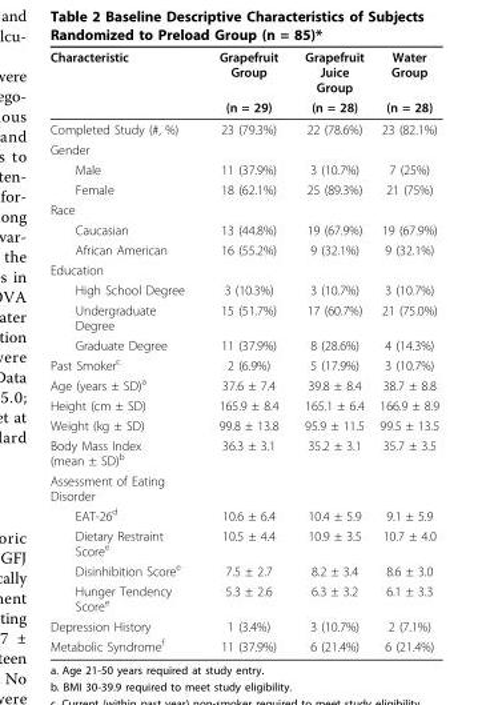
<table><thead><tr><td rowspan="2">Characteristic</td><td rowspan="2">Grapefruit Group (n = 29)</td><td rowspan="2">Grapefruit Juice Group (n = 28)</td><td rowspan="2">Water Group (n = 28)</td></tr><tr></tr></thead><tbody><tr><td>Completed Study (#, %)</td><td>23 (79.3%)</td><td>22 (78.6%)</td><td>23 (82.1%)</td></tr><tr><td colspan="4">Gender</td></tr><tr><td>Male</td><td>11 (37.9%)</td><td>3 (10.7%)</td><td>7 (25%)</td></tr><tr><td>Female</td><td>18 (62.1%)</td><td>25 (89.3%)</td><td>21 (75%)</td></tr><tr><td colspan="4">Race</td></tr><tr><td>Caucasian</td><td>13 (44.8%)</td><td>19 (67.9%)</td><td>19 (67.9%)</td></tr><tr><td>African American</td><td>16 (55.2%)</td><td>9 (32.1%)</td><td>9 (32.1%)</td></tr><tr><td colspan="4">Education</td></tr><tr><td>High School Degree</td><td>3 (10.3%)</td><td>3 (10.7%)</td><td>3 (10.7%)</td></tr><tr><td>Undergraduate Degree</td><td>15 (51.7%)</td><td>17 (60.7%)</td><td>21 (75.0%)</td></tr><tr><td>Graduate Degree</td><td>11 (37.9%)</td><td>8 (28.6%)</td><td>4 (14.3%)</td></tr><tr><td>Past Smoker<sup>c</sup></td><td>2 (6.9%)</td><td>5 (17.9%)</td><td>3 (10.7%)</td></tr><tr><td>Age (years ± SD)<sup>a</sup></td><td>37.6 ± 7.4</td><td>39.8 ± 8.4</td><td>38.7 ± 8.8</td></tr><tr><td>Height (cm ± SD)</td><td>165.9 ± 8.4</td><td>165.1 ± 6.4</td><td>166.9 ± 8.9</td></tr><tr><td>Weight (kg ± SD)</td><td>99.8 ± 13.8</td><td>95.9 ± 11.5</td><td>99.5 ± 13.5</td></tr><tr><td>Body Mass Index (mean ± SD)<sup>b</sup></td><td>36.3 ± 3.1</td><td>35.2 ± 3.1</td><td>35.7 ± 3.5</td></tr><tr><td colspan="4">Assessment of Eating Disorder</td></tr><tr><td>EAT-26<sup>d</sup></td><td>10.6 ± 6.4</td><td>10.4 ± 5.9</td><td>9.1 ± 5.9</td></tr><tr><td>Dietary Restraint Score<sup>e</sup></td><td>10.5 ± 4.4</td><td>10.9 ± 3.5</td><td>10.7 ± 4.0</td></tr><tr><td>Disinhibition Score<sup>e</sup></td><td>7.5 ± 2.7</td><td>8.2 ± 3.4</td><td>8.6 ± 3.0</td></tr><tr><td>Hunger Tendency Score<sup>e</sup></td><td>5.3 ± 2.6</td><td>6.3 ± 3.2</td><td>6.1 ± 3.3</td></tr><tr><td>Depression History</td><td>1 (3.4%)</td><td>3 (10.7%)</td><td>2 (7.1%)</td></tr><tr><td>Metabolic Syndrome<sup>f</sup></td><td>11 (37.9%)</td><td>6 (21.4%)</td><td>6 (21.4%)</td></tr></tbody></table>